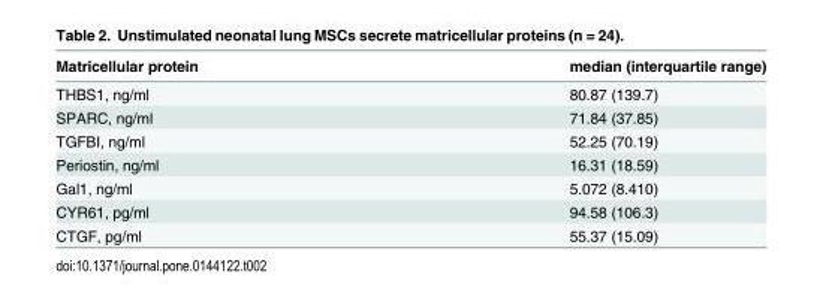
<table><thead><tr><td>Matricellular protein</td><td>median (interquartile range)</td></tr></thead><tbody><tr><td>THBS1, ng/ml</td><td>80.87 (139.7)</td></tr><tr><td>SPARC, ng/ml</td><td>71.84 (37.85)</td></tr><tr><td>TGFBI, ng/ml</td><td>52.25 (70.19)</td></tr><tr><td>Periostin, ng/ml</td><td>16.31 (18.59)</td></tr><tr><td>Gal1, ng/ml</td><td>5.072 (8.410)</td></tr><tr><td>CYR61, pg/ml</td><td>94.58 (106.3)</td></tr><tr><td>CTGF, pg/ml</td><td>55.37 (15.09)</td></tr></tbody></table>